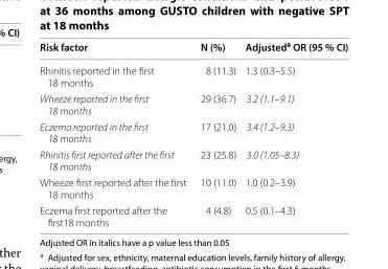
<table><thead><tr><td>Risk factor</td><td>N (%)</td><td>Adjusted<sup>a</sup> OR (95 % CI)</td></tr></thead><tbody><tr><td>Rhinitis reported in the first 18 months</td><td>8 (11.3)</td><td>1.3 (0.3–5.5)</td></tr><tr><td>Wheeze reported in the first 18 months</td><td>29 (36.7)</td><td>3.2 (1.1–9.1)</td></tr><tr><td>Eczema reported in the first 18 months</td><td>17 (21.0)</td><td>3.4 (1.2–9.3)</td></tr><tr><td>Rhinitis first reported after the first 18 months</td><td>23 (25.8)</td><td>3.0 (1.05–8.3)</td></tr><tr><td>Wheeze first reported after the first 18 months</td><td>10 (11.0)</td><td>1.0 (0.2–3.9)</td></tr><tr><td>Eczema first reported after the first18 months</td><td>4 (4.8)</td><td>0.5 (0.1–4.3)</td></tr></tbody></table>